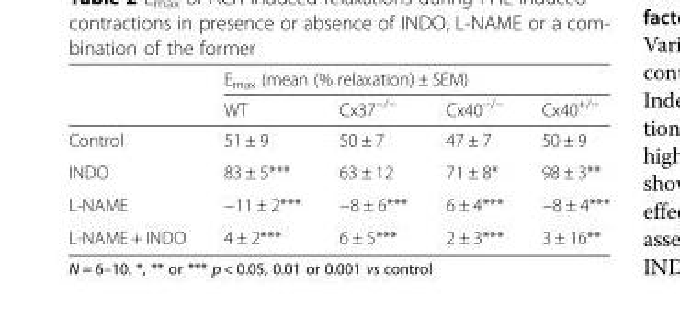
<table><thead><tr><td rowspan="2"></td><td colspan="4">E<sub>max</sub> (mean (% relaxation) ± SEM)</td></tr><tr><td>WT</td><td>Cx37<sup>−/−</sup></td><td>Cx40<sup>−/−</sup></td><td>Cx40<sup>+/−</sup></td></tr></thead><tbody><tr><td>Control</td><td>51 ± 9</td><td>50 ± 7</td><td>47 ± 7</td><td>50 ± 9</td></tr><tr><td>INDO</td><td>83 ± 5***</td><td>63 ± 12</td><td>71 ± 8*</td><td>98 ± 3**</td></tr><tr><td>L-NAME</td><td>−11 ± 2***</td><td>−8 ± 6***</td><td>6 ± 4***</td><td>−8 ± 4***</td></tr><tr><td>L-NAME + INDO</td><td>4 ± 2***</td><td>6 ± 5***</td><td>2 ± 3***</td><td>3 ± 16**</td></tr></tbody></table>